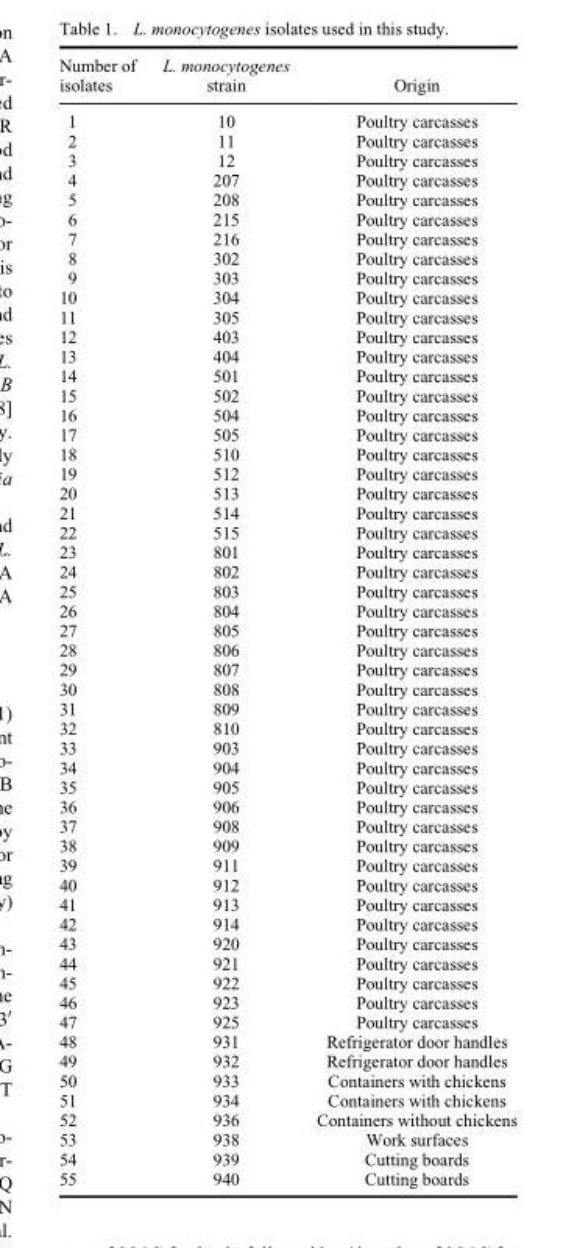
<table><thead><tr><td>Number of isolates</td><td>L. monocytogenes strain</td><td>Origin</td></tr></thead><tbody><tr><td>1</td><td>10</td><td>Poultry carcasses</td></tr><tr><td>2</td><td>11</td><td>Poultry carcasses</td></tr><tr><td>3</td><td>12</td><td>Poultry carcasses</td></tr><tr><td>4</td><td>207</td><td>Poultry carcasses</td></tr><tr><td>5</td><td>208</td><td>Poultry carcasses</td></tr><tr><td>6</td><td>215</td><td>Poultry carcasses</td></tr><tr><td>7</td><td>216</td><td>Poultry carcasses</td></tr><tr><td>8</td><td>302</td><td>Poultry carcasses</td></tr><tr><td>9</td><td>303</td><td>Poultry carcasses</td></tr><tr><td>10</td><td>304</td><td>Poultry carcasses</td></tr><tr><td>11</td><td>305</td><td>Poultry carcasses</td></tr><tr><td>12</td><td>403</td><td>Poultry carcasses</td></tr><tr><td>13</td><td>404</td><td>Poultry carcasses</td></tr><tr><td>14</td><td>501</td><td>Poultry carcasses</td></tr><tr><td>15</td><td>502</td><td>Poultry carcasses</td></tr><tr><td>16</td><td>504</td><td>Poultry carcasses</td></tr><tr><td>17</td><td>505</td><td>Poultry carcasses</td></tr><tr><td>18</td><td>510</td><td>Poultry carcasses</td></tr><tr><td>19</td><td>512</td><td>Poultry carcasses</td></tr><tr><td>20</td><td>513</td><td>Poultry carcasses</td></tr><tr><td>21</td><td>514</td><td>Poultry carcasses</td></tr><tr><td>22</td><td>515</td><td>Poultry carcasses</td></tr><tr><td>23</td><td>801</td><td>Poultry carcasses</td></tr><tr><td>24</td><td>802</td><td>Poultry carcasses</td></tr><tr><td>25</td><td>803</td><td>Poultry carcasses</td></tr><tr><td>26</td><td>804</td><td>Poultry carcasses</td></tr><tr><td>27</td><td>805</td><td>Poultry carcasses</td></tr><tr><td>28</td><td>806</td><td>Poultry carcasses</td></tr><tr><td>29</td><td>807</td><td>Poultry carcasses</td></tr><tr><td>30</td><td>808</td><td>Poultry carcasses</td></tr><tr><td>31</td><td>809</td><td>Poultry carcasses</td></tr><tr><td>32</td><td>810</td><td>Poultry carcasses</td></tr><tr><td>33</td><td>903</td><td>Poultry carcasses</td></tr><tr><td>34</td><td>904</td><td>Poultry carcasses</td></tr><tr><td>35</td><td>905</td><td>Poultry carcasses</td></tr><tr><td>36</td><td>906</td><td>Poultry carcasses</td></tr><tr><td>37</td><td>908</td><td>Poultry carcasses</td></tr><tr><td>38</td><td>909</td><td>Poultry carcasses</td></tr><tr><td>39</td><td>911</td><td>Poultry carcasses</td></tr><tr><td>40</td><td>912</td><td>Poultry carcasses</td></tr><tr><td>41</td><td>913</td><td>Poultry carcasses</td></tr><tr><td>42</td><td>914</td><td>Poultry carcasses</td></tr><tr><td>43</td><td>920</td><td>Poultry carcasses</td></tr><tr><td>44</td><td>921</td><td>Poultry carcasses</td></tr><tr><td>45</td><td>922</td><td>Poultry carcasses</td></tr><tr><td>46</td><td>923</td><td>Poultry carcasses</td></tr><tr><td>47</td><td>925</td><td>Poultry carcasses</td></tr><tr><td>48</td><td>931</td><td>Refrigerator door handles</td></tr><tr><td>49</td><td>932</td><td>Refrigerator door handles</td></tr><tr><td>50</td><td>933</td><td>Containers with chickens</td></tr><tr><td>51</td><td>934</td><td>Containers with chickens</td></tr><tr><td>52</td><td>936</td><td>Containers without chickens</td></tr><tr><td>53</td><td>938</td><td>Work surfaces</td></tr><tr><td>54</td><td>939</td><td>Cutting boards</td></tr><tr><td>55</td><td>940</td><td>Cutting boards</td></tr></tbody></table>